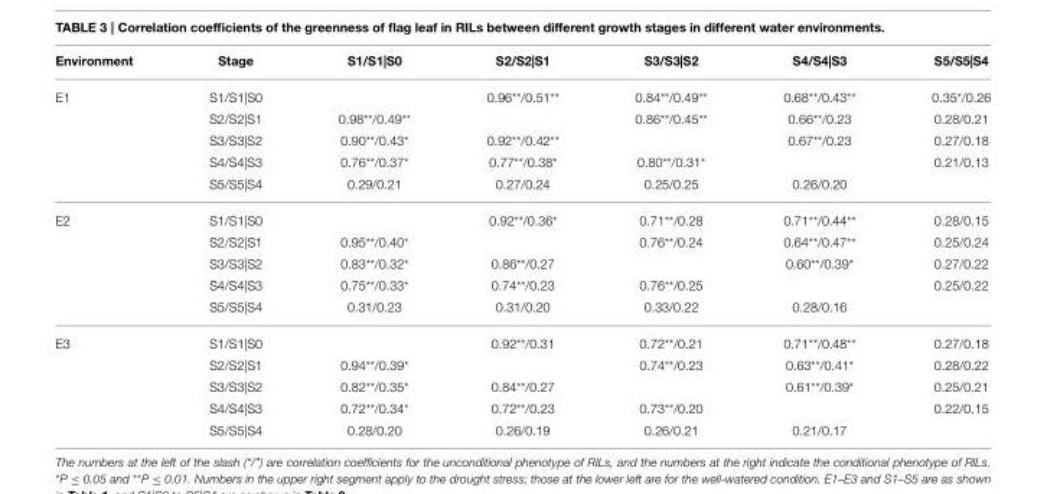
<table><thead><tr><td>Environment</td><td>Stage</td><td>S1/S1|S0</td><td>S2/S2|S1</td><td>S3/S3|S2</td><td>S4/S4|S3</td><td>S5/S5|S4</td></tr></thead><tbody><tr><td rowspan="5">E1</td><td>S1/S1|S0</td><td></td><td>0.96**/0.51**</td><td>0.84**/0.49**</td><td>0.68**/0.43**</td><td>0.35*/0.26</td></tr><tr><td>S2/S2|S1</td><td>0.98**/0.49**</td><td></td><td>0.86**/0.45**</td><td>0.66**/0.23</td><td>0.28/0.21</td></tr><tr><td>S3/S3|S2</td><td>0.90**/0.43*</td><td>0.92**/0.42**</td><td></td><td>0.67**/0.23</td><td>0.27/0.18</td></tr><tr><td>S4/S4|S3</td><td>0.76**/0.37*</td><td>0.77**/0.38*</td><td>0.80**/0.31*</td><td></td><td>0.21/0.13</td></tr><tr><td>S5/S5|S4</td><td>0.29/0.21</td><td>0.27/0.24</td><td>0.25/0.25</td><td>0.26/0.20</td><td></td></tr><tr><td rowspan="5">E2</td><td>S1/S1|S0</td><td></td><td>0.92**/0.36*</td><td>0.71**/0.28</td><td>0.71**/0.44**</td><td>0.28/0.15</td></tr><tr><td>S2/S2|S1</td><td>0.95**/0.40*</td><td></td><td>0.76**/0.24</td><td>0.64**/0.47**</td><td>0.25/0.24</td></tr><tr><td>S3/S3|S2</td><td>0.83**/0.32*</td><td>0.86**/0.27</td><td></td><td>0.60**/0.39*</td><td>0.27/0.22</td></tr><tr><td>S4/S4|S3</td><td>0.75**/0.33*</td><td>0.74**/0.23</td><td>0.76**/0.25</td><td></td><td>0.25/0.22</td></tr><tr><td>S5/S5|S4</td><td>0.31/0.23</td><td>0.31/0.20</td><td>0.33/0.22</td><td>0.28/0.16</td><td></td></tr><tr><td rowspan="5">E3</td><td>S1/S1|S0</td><td></td><td>0.92**/0.31</td><td>0.72**/0.21</td><td>0.71**/0.48**</td><td>0.27/0.18</td></tr><tr><td>S2/S2|S1</td><td>0.94**/0.39*</td><td></td><td>0.74**/0.23</td><td>0.63**/0.41*</td><td>0.28/0.22</td></tr><tr><td>S3/S3|S2</td><td>0.82**/0.35*</td><td>0.84**/0.27</td><td></td><td>0.61**/0.39*</td><td>0.25/0.21</td></tr><tr><td>S4/S4|S3</td><td>0.72**/0.34*</td><td>0.72**/0.23</td><td>0.73**/0.20</td><td></td><td>0.22/0.15</td></tr><tr><td>S5/S5|S4</td><td>0.28/0.20</td><td>0.26/0.19</td><td>0.26/0.21</td><td>0.21/0.17</td><td></td></tr></tbody></table>